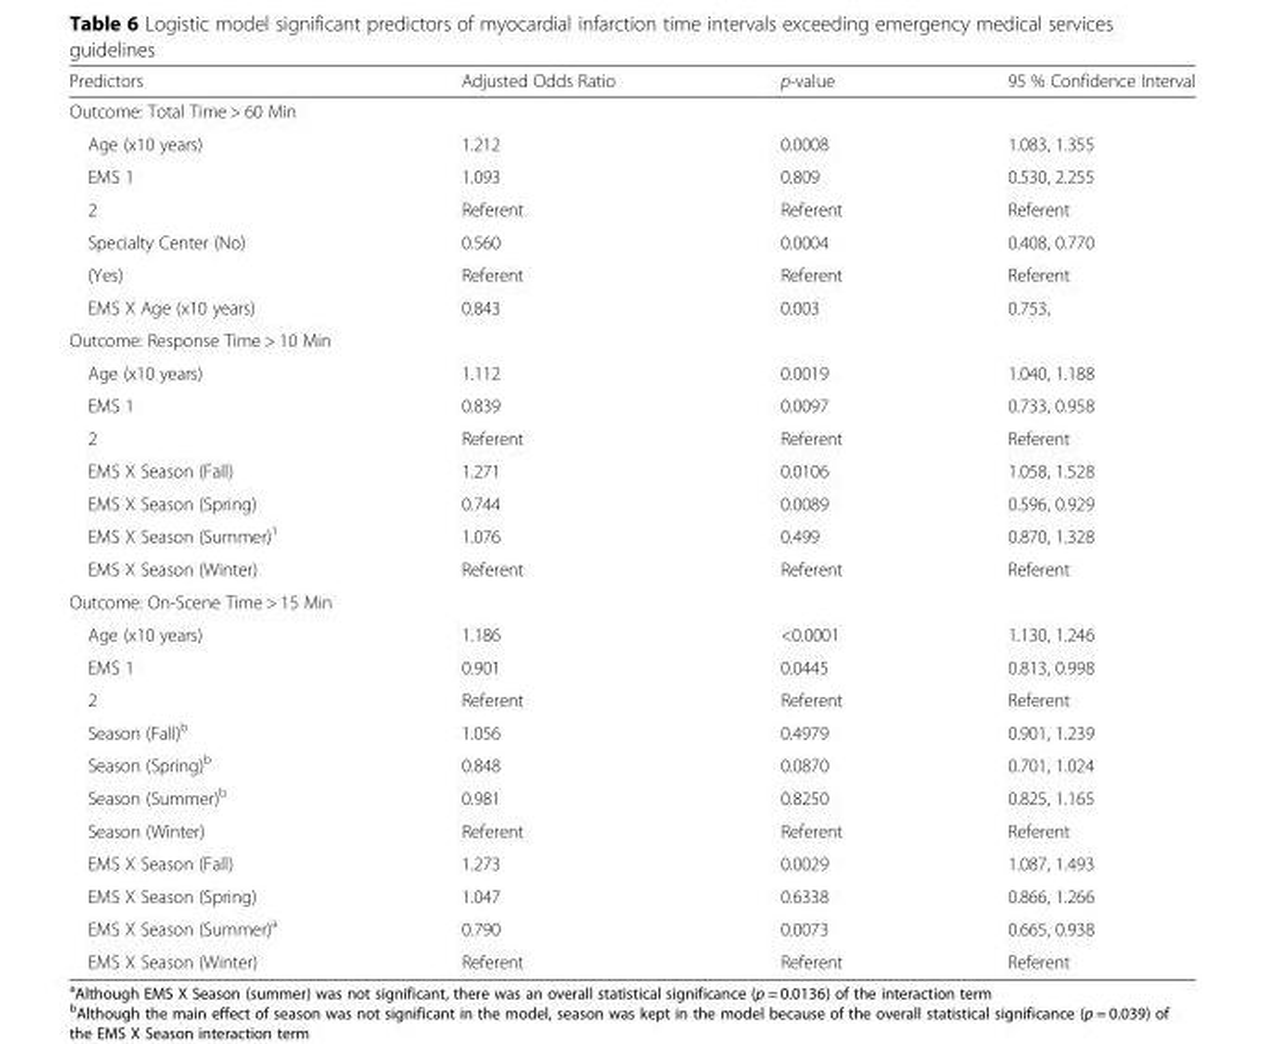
<table><thead><tr><td>Predictors</td><td>Adjusted Odds Ratio</td><td>p-value</td><td>95 % Confidence Interval</td></tr></thead><tbody><tr><td colspan="4">Outcome: Total Time &gt; 60 Min</td></tr><tr><td>Age (x10 years)</td><td>1.212</td><td>0.0008</td><td>1.083, 1.355</td></tr><tr><td>EMS 1</td><td>1.093</td><td>0.809</td><td>0.530, 2.255</td></tr><tr><td>2</td><td>Referent</td><td>Referent</td><td>Referent</td></tr><tr><td>Specialty Center (No)</td><td>0.560</td><td>0.0004</td><td>0.408, 0.770</td></tr><tr><td>(Yes)</td><td>Referent</td><td>Referent</td><td>Referent</td></tr><tr><td>EMS X Age (x10 years)</td><td>0.843</td><td>0.003</td><td>0.753,</td></tr><tr><td colspan="4">Outcome: Response Time &gt; 10 Min</td></tr><tr><td>Age (x10 years)</td><td>1.112</td><td>0.0019</td><td>1.040, 1.188</td></tr><tr><td>EMS 1</td><td>0.839</td><td>0.0097</td><td>0.733, 0.958</td></tr><tr><td>2</td><td>Referent</td><td>Referent</td><td>Referent</td></tr><tr><td>EMS X Season (Fall)</td><td>1.271</td><td>0.0106</td><td>1.058, 1.528</td></tr><tr><td>EMS X Season (Spring)</td><td>0.744</td><td>0.0089</td><td>0.596, 0.929</td></tr><tr><td>EMS X Season (Summer)<sup>1</sup></td><td>1.076</td><td>0.499</td><td>0.870, 1.328</td></tr><tr><td>EMS X Season (Winter)</td><td>Referent</td><td>Referent</td><td>Referent</td></tr><tr><td colspan="4">Outcome: On-Scene Time &gt; 15 Min</td></tr><tr><td>Age (x10 years)</td><td>1.186</td><td>&lt;0.0001</td><td>1.130, 1.246</td></tr><tr><td>EMS 1</td><td>0.901</td><td>0.0445</td><td>0.813, 0.998</td></tr><tr><td>2</td><td>Referent</td><td>Referent</td><td>Referent</td></tr><tr><td>Season (Fall)<sup>b</sup></td><td>1.056</td><td>0.4979</td><td>0.901, 1.239</td></tr><tr><td>Season (Spring)<sup>b</sup></td><td>0.848</td><td>0.0870</td><td>0.701, 1.024</td></tr><tr><td>Season (Summer)<sup>b</sup></td><td>0.981</td><td>0.8250</td><td>0.825, 1.165</td></tr><tr><td>Season (Winter)</td><td>Referent</td><td>Referent</td><td>Referent</td></tr><tr><td>EMS X Season (Fall)</td><td>1.273</td><td>0.0029</td><td>1.087, 1.493</td></tr><tr><td>EMS X Season (Spring)</td><td>1.047</td><td>0.6338</td><td>0.866, 1.266</td></tr><tr><td>EMS X Season (Summer)<sup>a</sup></td><td>0.790</td><td>0.0073</td><td>0.665, 0.938</td></tr><tr><td>EMS X Season (Winter)</td><td>Referent</td><td>Referent</td><td>Referent</td></tr></tbody></table>